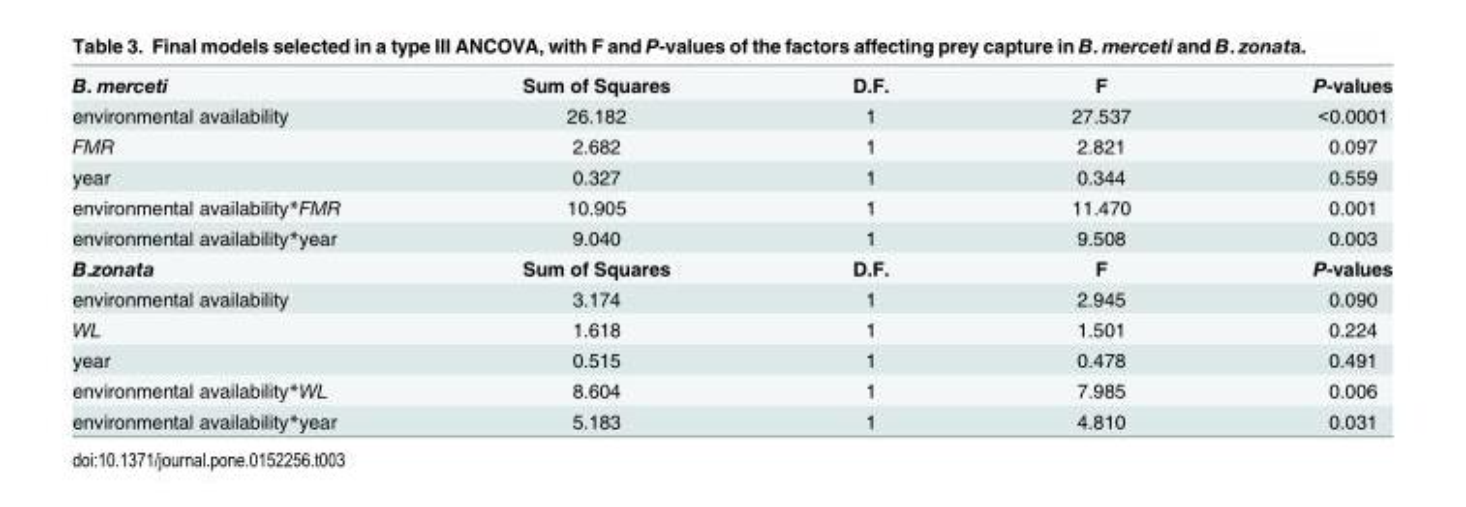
<table><tbody><tr><td>B. merceti</td><td>Sum of Squares</td><td>D.F.</td><td>F</td><td>P-values</td></tr><tr><td>environmental availability</td><td>26.182</td><td>1</td><td>27.537</td><td>&lt;0.0001</td></tr><tr><td>FMR</td><td>2.682</td><td>1</td><td>2.821</td><td>0.097</td></tr><tr><td>year</td><td>0.327</td><td>1</td><td>0.344</td><td>0.559</td></tr><tr><td>environmental availability*FMR</td><td>10.905</td><td>1</td><td>11.470</td><td>0.001</td></tr><tr><td>environmental availability*year</td><td>9.040</td><td>1</td><td>9.508</td><td>0.003</td></tr><tr><td>B.zonata</td><td>Sum of Squares</td><td>D.F.</td><td>F</td><td>P-values</td></tr><tr><td>environmental availability</td><td>3.174</td><td>1</td><td>2.945</td><td>0.090</td></tr><tr><td>WL</td><td>1.618</td><td>1</td><td>1.501</td><td>0.224</td></tr><tr><td>year</td><td>0.515</td><td>1</td><td>0.478</td><td>0.491</td></tr><tr><td>environmental availability*WL</td><td>8.604</td><td>1</td><td>7.985</td><td>0.006</td></tr><tr><td>environmental availability*year</td><td>5.183</td><td>1</td><td>4.810</td><td>0.031</td></tr></tbody></table>